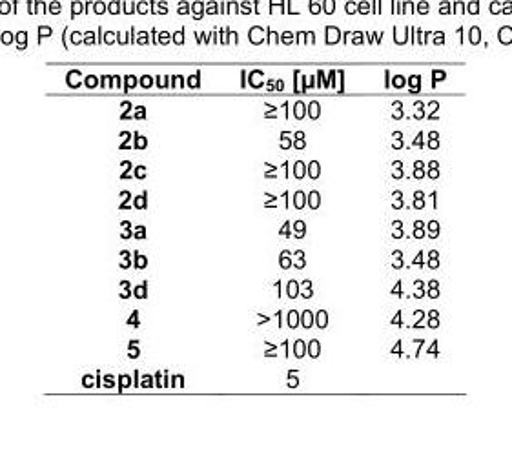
<table><thead><tr><td>Compound</td><td>IC<sub>50</sub> [µM]</td><td>log P</td></tr></thead><tbody><tr><td>2a</td><td>≥100</td><td>3.32</td></tr><tr><td>2b</td><td>58</td><td>3.48</td></tr><tr><td>2c</td><td>≥100</td><td>3.88</td></tr><tr><td>2d</td><td>≥100</td><td>3.81</td></tr><tr><td>3a</td><td>49</td><td>3.89</td></tr><tr><td>3b</td><td>63</td><td>3.48</td></tr><tr><td>3d</td><td>103</td><td>4.38</td></tr><tr><td>4</td><td>&gt;1000</td><td>4.28</td></tr><tr><td>5</td><td>≥100</td><td>4.74</td></tr><tr><td>cisplatin</td><td>5</td><td></td></tr></tbody></table>